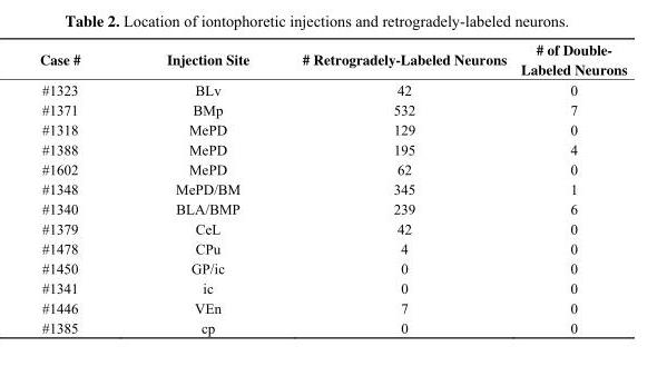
<table><thead><tr><td>Case #</td><td>Injection Site</td><td># Retrogradely-Labeled Neurons</td><td># of Double- Labeled Neurons</td></tr></thead><tbody><tr><td>#1323</td><td>BLv</td><td>42</td><td>0</td></tr><tr><td>#1371</td><td>BMp</td><td>532</td><td>7</td></tr><tr><td>#1318</td><td>MePD</td><td>129</td><td>0</td></tr><tr><td>#1388</td><td>MePD</td><td>195</td><td>4</td></tr><tr><td>#1602</td><td>MePD</td><td>62</td><td>0</td></tr><tr><td>#1348</td><td>MePD/BM</td><td>345</td><td>1</td></tr><tr><td>#1340</td><td>BLA/BMP</td><td>239</td><td>6</td></tr><tr><td>#1379</td><td>CeL</td><td>42</td><td>0</td></tr><tr><td>#1478</td><td>CPu</td><td>4</td><td>0</td></tr><tr><td>#1450</td><td>GP/ic</td><td>0</td><td>0</td></tr><tr><td>#1341</td><td>ic</td><td>0</td><td>0</td></tr><tr><td>#1446</td><td>VEn</td><td>7</td><td>0</td></tr><tr><td>#1385</td><td>cp</td><td>0</td><td>0</td></tr></tbody></table>